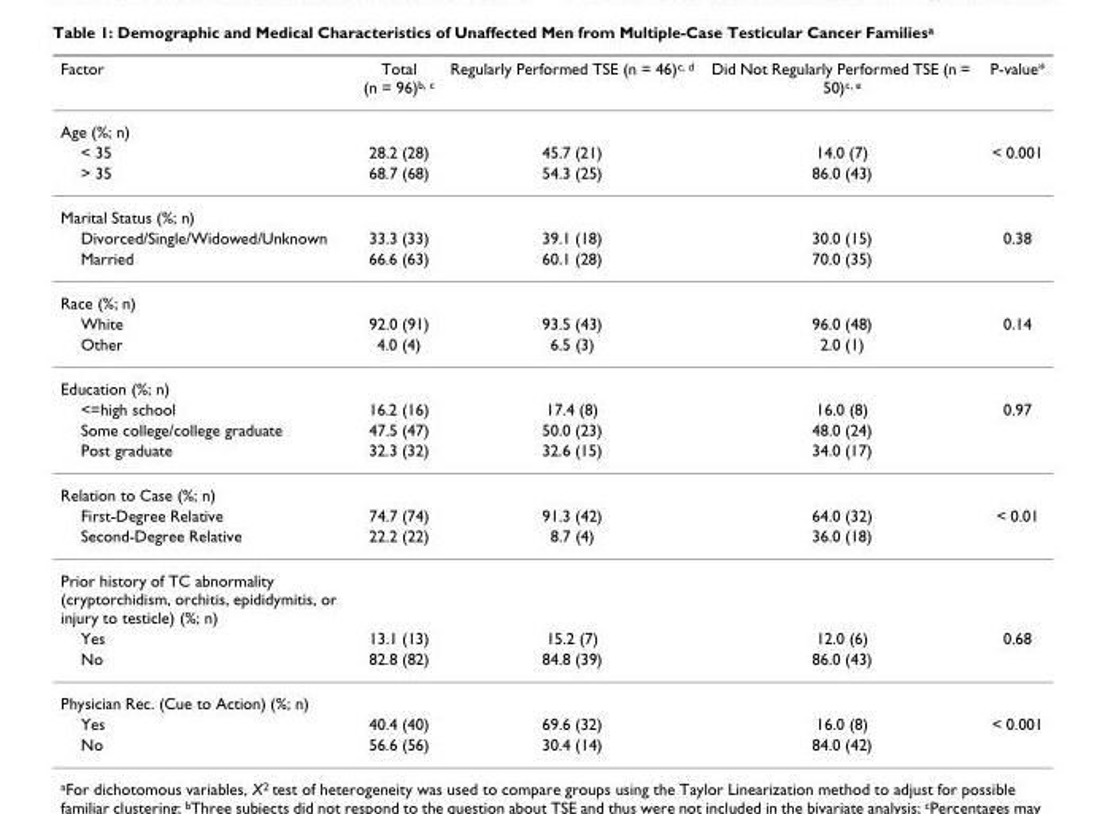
<table><thead><tr><td>Factor</td><td>Total (n = 96)<sup>b, c</sup></td><td>Regularly Performed TSE (n = 46)<sup>c, d</sup></td><td>Did Not Regularly Performed TSE (n = 50)<sup>c, e</sup></td><td>P-value*</td></tr></thead><tbody><tr><td colspan="5">Age (%; n)</td></tr><tr><td>&lt; 35</td><td>28.2 (28)</td><td>45.7 (21)</td><td>14.0 (7)</td><td>&lt; 0.001</td></tr><tr><td>&gt; 35</td><td>68.7 (68)</td><td>54.3 (25)</td><td>86.0 (43)</td><td></td></tr><tr><td colspan="5">Marital Status (%; n)</td></tr><tr><td>Divorced/Single/Widowed/Unknown</td><td>33.3 (33)</td><td>39.1 (18)</td><td>30.0 (15)</td><td>0.38</td></tr><tr><td>Married</td><td>66.6 (63)</td><td>60.1 (28)</td><td>70.0 (35)</td><td></td></tr><tr><td colspan="5">Race (%; n)</td></tr><tr><td>White</td><td>92.0 (91)</td><td>93.5 (43)</td><td>96.0 (48)</td><td>0.14</td></tr><tr><td>Other</td><td>4.0 (4)</td><td>6.5 (3)</td><td>2.0 (1)</td><td></td></tr><tr><td colspan="5">Education (%; n)</td></tr><tr><td>&lt;=high school</td><td>16.2 (16)</td><td>17.4 (8)</td><td>16.0 (8)</td><td>0.97</td></tr><tr><td>Some college/college graduate</td><td>47.5 (47)</td><td>50.0 (23)</td><td>48.0 (24)</td><td></td></tr><tr><td>Post graduate</td><td>32.3 (32)</td><td>32.6 (15)</td><td>34.0 (17)</td><td></td></tr><tr><td colspan="5">Relation to Case (%; n)</td></tr><tr><td>First-Degree Relative</td><td>74.7 (74)</td><td>91.3 (42)</td><td>64.0 (32)</td><td>&lt; 0.01</td></tr><tr><td>Second-Degree Relative</td><td>22.2 (22)</td><td>8.7 (4)</td><td>36.0 (18)</td><td></td></tr><tr><td colspan="5">Prior history of TC abnormality (cryptorchidism, orchitis, epididymitis, or injury to testicle) (%; n)</td></tr><tr><td>Yes</td><td>13.1 (13)</td><td>15.2 (7)</td><td>12.0 (6)</td><td>0.68</td></tr><tr><td>No</td><td>82.8 (82)</td><td>84.8 (39)</td><td>86.0 (43)</td><td></td></tr><tr><td colspan="5">Physician Rec. (Cue to Action) (%; n)</td></tr><tr><td>Yes</td><td>40.4 (40)</td><td>69.6 (32)</td><td>16.0 (8)</td><td>&lt; 0.001</td></tr><tr><td>No</td><td>56.6 (56)</td><td>30.4 (14)</td><td>84.0 (42)</td><td></td></tr></tbody></table>